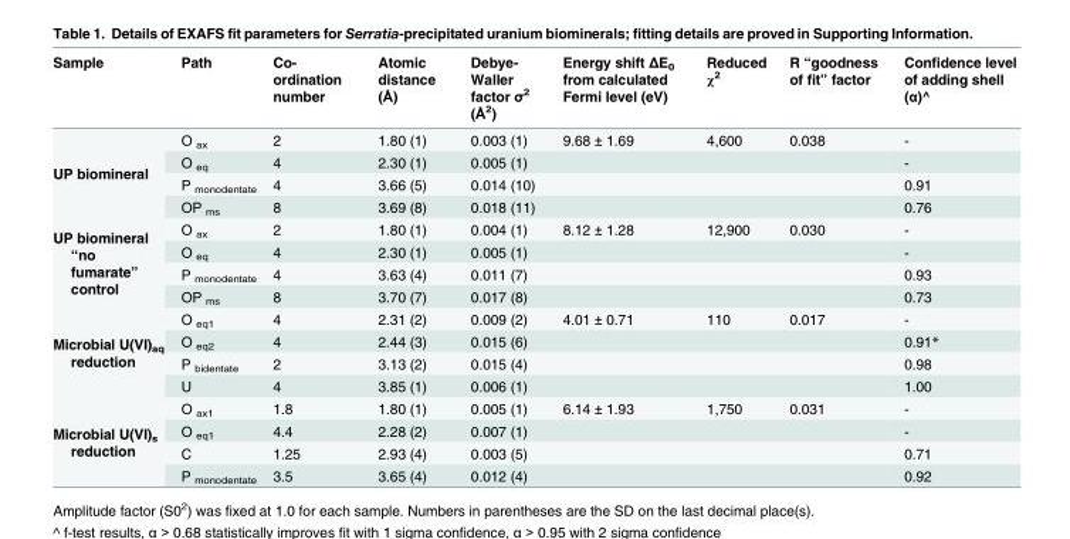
<table><thead><tr><td>Sample</td><td>Path</td><td>Co- ordination number</td><td>Atomic distance (Å)</td><td>Debye- Waller factor σ<sup>2</sup> (Å<sup>2</sup>)</td><td>Energy shift ΔE0 from calculated Fermi level (eV)</td><td>Reduced χ<sup>2</sup></td><td>R “goodness of fit” factor</td><td>Confidence level of adding shell (α)^</td></tr></thead><tbody><tr><td rowspan="4">UP biomineral</td><td>O <sub>ax</sub></td><td>2</td><td>1.80 (1)</td><td>0.003 (1)</td><td>9.68 ± 1.69</td><td>4,600</td><td>0.038</td><td>-</td></tr><tr><td>O <sub>eq</sub></td><td>4</td><td>2.30 (1)</td><td>0.005 (1)</td><td></td><td></td><td></td><td>-</td></tr><tr><td>P <sub>monodentate</sub></td><td>4</td><td>3.66 (5)</td><td>0.014 (10)</td><td></td><td></td><td></td><td>0.91</td></tr><tr><td>OP <sub>ms</sub></td><td>8</td><td>3.69 (8)</td><td>0.018 (11)</td><td></td><td></td><td></td><td>0.76</td></tr><tr><td rowspan="4">UP biomineral “no fumarate” control</td><td>O <sub>ax</sub></td><td>2</td><td>1.80 (1)</td><td>0.004 (1)</td><td>8.12 ± 1.28</td><td>12,900</td><td>0.030</td><td>-</td></tr><tr><td>O <sub>eq</sub></td><td>4</td><td>2.30 (1)</td><td>0.005 (1)</td><td></td><td></td><td></td><td>-</td></tr><tr><td>P <sub>monodentate</sub></td><td>4</td><td>3.63 (4)</td><td>0.011 (7)</td><td></td><td></td><td></td><td>0.93</td></tr><tr><td>OP <sub>ms</sub></td><td>8</td><td>3.70 (7)</td><td>0.017 (8)</td><td></td><td></td><td></td><td>0.73</td></tr><tr><td rowspan="4">Microbial U(VI)<sub>aq</sub> reduction</td><td>O <sub>eq1</sub></td><td>4</td><td>2.31 (2)</td><td>0.009 (2)</td><td>4.01 ± 0.71</td><td>110</td><td>0.017</td><td>-</td></tr><tr><td>O <sub>eq2</sub></td><td>4</td><td>2.44 (3)</td><td>0.015 (6)</td><td></td><td></td><td></td><td>0.91*</td></tr><tr><td>P <sub>bidentate</sub></td><td>2</td><td>3.13 (2)</td><td>0.015 (4)</td><td></td><td></td><td></td><td>0.98</td></tr><tr><td>U</td><td>4</td><td>3.85 (1)</td><td>0.006 (1)</td><td></td><td></td><td></td><td>1.00</td></tr><tr><td rowspan="4">Microbial U(VI)<sub>s</sub> reduction</td><td>O <sub>ax1</sub></td><td>1.8</td><td>1.80 (1)</td><td>0.005 (1)</td><td>6.14 ± 1.93</td><td>1,750</td><td>0.031</td><td>-</td></tr><tr><td>O <sub>eq1</sub></td><td>4.4</td><td>2.28 (2)</td><td>0.007 (1)</td><td></td><td></td><td></td><td>-</td></tr><tr><td>C</td><td>1.25</td><td>2.93 (4)</td><td>0.003 (5)</td><td></td><td></td><td></td><td>0.71</td></tr><tr><td>P <sub>monodentate</sub></td><td>3.5</td><td>3.65 (4)</td><td>0.012 (4)</td><td></td><td></td><td></td><td>0.92</td></tr></tbody></table>